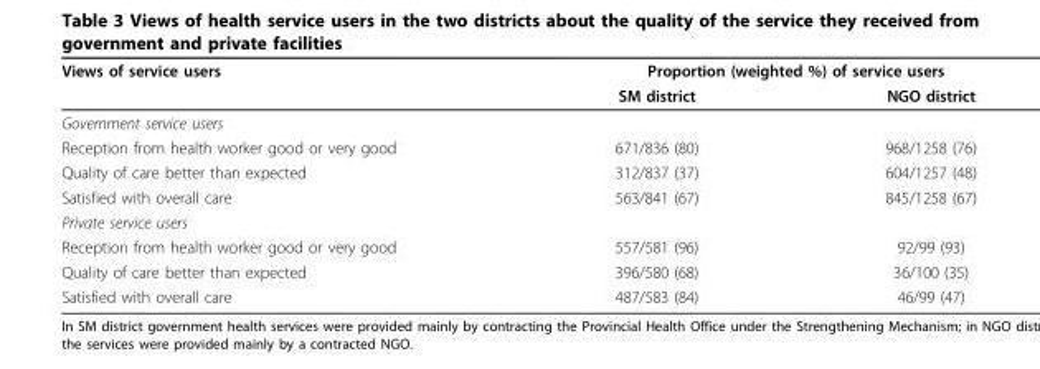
<table><thead><tr><td rowspan="2">Views of service users</td><td colspan="2">Proportion (weighted %) of service users</td></tr><tr><td>SM district</td><td>NGO district</td></tr></thead><tbody><tr><td colspan="3">Government service users</td></tr><tr><td>Reception from health worker good or very good</td><td>671/836 (80)</td><td>968/1258 (76)</td></tr><tr><td>Quality of care better than expected</td><td>312/837 (37)</td><td>604/1257 (48)</td></tr><tr><td>Satisfied with overall care</td><td>563/841 (67)</td><td>845/1258 (67)</td></tr><tr><td colspan="3">Private service users</td></tr><tr><td>Reception from health worker good or very good</td><td>557/581 (96)</td><td>92/99 (93)</td></tr><tr><td>Quality of care better than expected</td><td>396/580 (68)</td><td>36/100 (35)</td></tr><tr><td>Satisfied with overall care</td><td>487/583 (84)</td><td>46/99 (47)</td></tr></tbody></table>